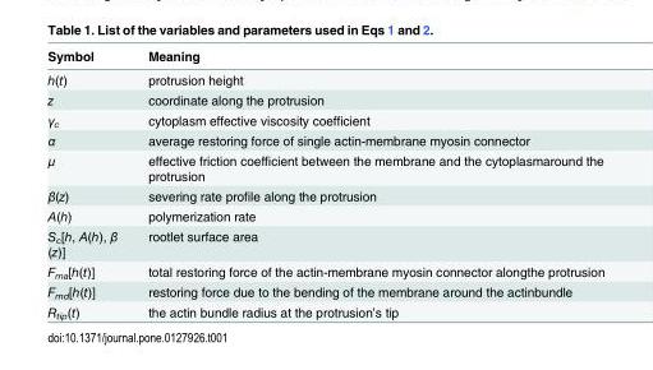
<table><thead><tr><td>Symbol</td><td>Meaning</td></tr></thead><tbody><tr><td>h(t)</td><td>protrusion height</td></tr><tr><td>z</td><td>coordinate along the protrusion</td></tr><tr><td>γ<sub>c</sub></td><td>cytoplasm effective viscosity coefficient</td></tr><tr><td>α</td><td>average restoring force of single actin-membrane myosin connector</td></tr><tr><td>μ</td><td>effective friction coefficient between the membrane and the cytoplasmaround the protrusion</td></tr><tr><td>β(z)</td><td>severing rate profile along the protrusion</td></tr><tr><td>A(h)</td><td>polymerization rate</td></tr><tr><td>S<sub>c</sub>[h, A(h), β (z)]</td><td>rootlet surface area</td></tr><tr><td>F<sub>ma</sub>[h(t)]</td><td>total restoring force of the actin-membrane myosin connector alongthe protrusion</td></tr><tr><td>F<sub>md</sub>[h(t)]</td><td>restoring force due to the bending of the membrane around the actinbundle</td></tr><tr><td>R<sub>tip</sub>(t)</td><td>the actin bundle radius at the protrusion’s tip</td></tr></tbody></table>